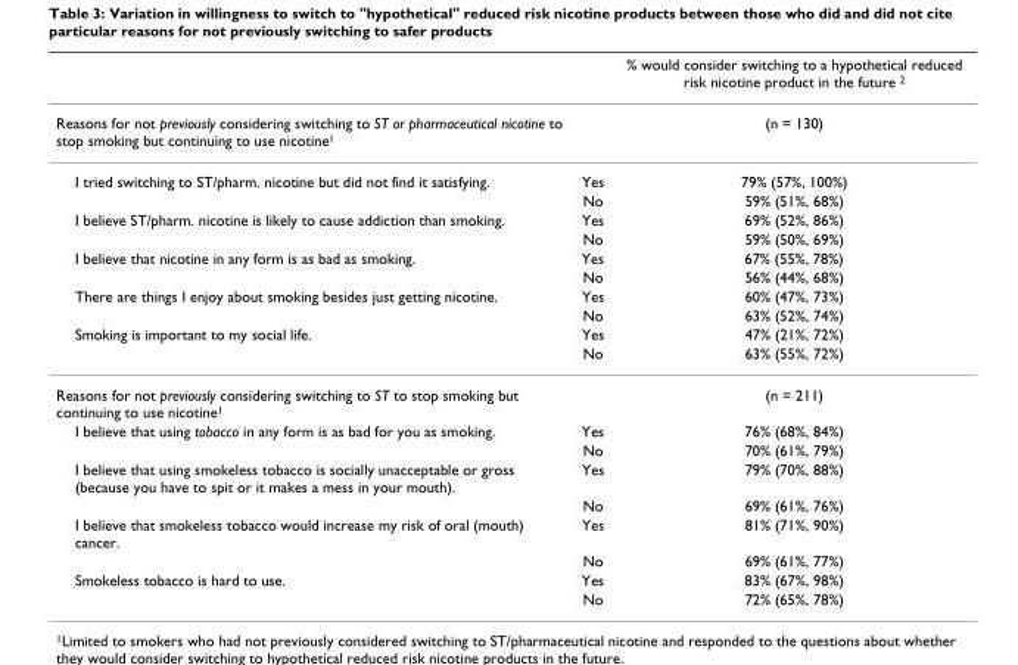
<table><thead><tr><td></td><td></td><td>% would consider switching to a hypothetical reduced risk nicotine product in the future <sup>2</sup></td></tr></thead><tbody><tr><td>Reasons for not previously considering switching to ST or pharmaceutical nicotine to stop smoking but continuing to use nicotine<sup>1</sup></td><td></td><td>(n = 130)</td></tr><tr><td rowspan="2">I tried switching to ST/pharm. nicotine but did not find it satisfying.</td><td>Yes</td><td>79% (57%, 100%)</td></tr><tr><td>No</td><td>59% (51%, 68%)</td></tr><tr><td rowspan="2">I believe ST/pharm. nicotine is likely to cause addiction than smoking.</td><td>Yes</td><td>69% (52%, 86%)</td></tr><tr><td>No</td><td>59% (50%, 69%)</td></tr><tr><td rowspan="2">I believe that nicotine in any form is as bad as smoking.</td><td>Yes</td><td>67% (55%, 78%)</td></tr><tr><td>No</td><td>56% (44%, 68%)</td></tr><tr><td rowspan="2">There are things I enjoy about smoking besides just getting nicotine.</td><td>Yes</td><td>60% (47%, 73%)</td></tr><tr><td>No</td><td>63% (52%, 74%)</td></tr><tr><td rowspan="2">Smoking is important to my social life.</td><td>Yes</td><td>47% (21%, 72%)</td></tr><tr><td>No</td><td>63% (55%, 72%)</td></tr><tr><td>Reasons for not previously considering switching to ST to stop smoking but continuing to use nicotine<sup>1</sup></td><td></td><td>(n = 211)</td></tr><tr><td rowspan="2">I believe that using tobacco in any form is as bad for you as smoking.</td><td>Yes</td><td>76% (68%, 84%)</td></tr><tr><td>No</td><td>70% (61%, 79%)</td></tr><tr><td rowspan="2">I believe that using smokeless tobacco is socially unacceptable or gross (because you have to spit or it makes a mess in your mouth).</td><td>Yes</td><td>79% (70%, 88%)</td></tr><tr><td>No</td><td>69% (61%, 76%)</td></tr><tr><td rowspan="2">I believe that smokeless tobacco would increase my risk of oral (mouth) cancer.</td><td>Yes</td><td>81% (71%, 90%)</td></tr><tr><td>No</td><td>69% (61%, 77%)</td></tr><tr><td rowspan="2">Smokeless tobacco is hard to use.</td><td>Yes</td><td>83% (67%, 98%)</td></tr><tr><td>No</td><td>72% (65%, 78%)</td></tr></tbody></table>